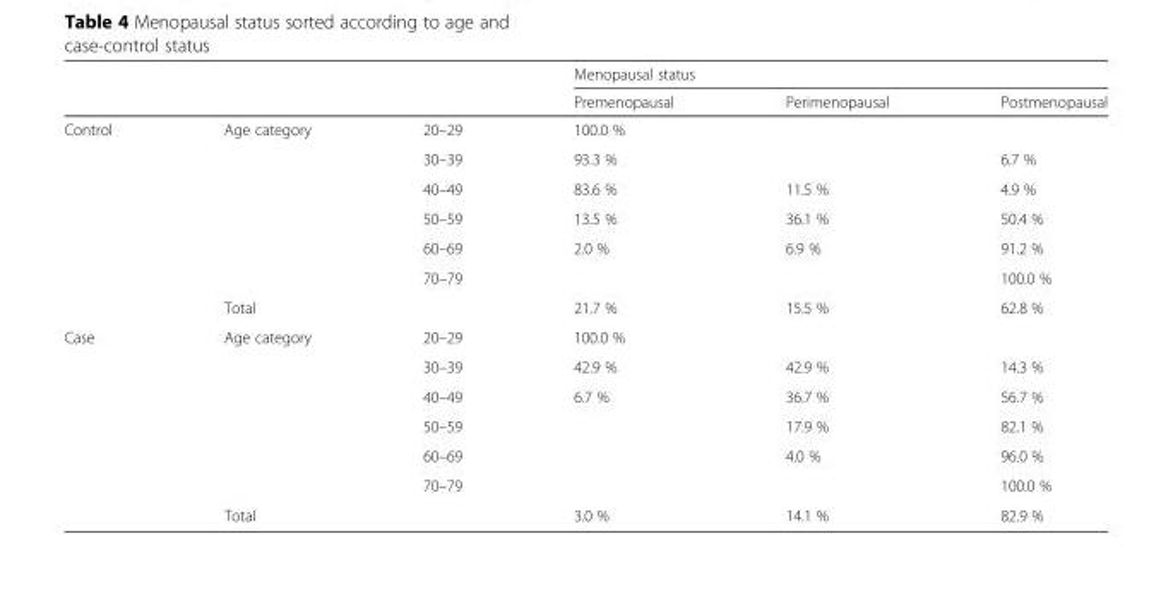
<table><thead><tr><td rowspan="2"></td><td rowspan="2"></td><td rowspan="2"></td><td colspan="3">Menopausal status</td></tr><tr><td>Premenopausal</td><td>Perimenopausal</td><td>Postmenopausal</td></tr></thead><tbody><tr><td rowspan="7">Control</td><td rowspan="6">Age category</td><td>20–29</td><td>100.0 %</td><td></td><td></td></tr><tr><td>30–39</td><td>93.3 %</td><td></td><td>6.7 %</td></tr><tr><td>40–49</td><td>83.6 %</td><td>11.5 %</td><td>4.9 %</td></tr><tr><td>50–59</td><td>13.5 %</td><td>36.1 %</td><td>50.4 %</td></tr><tr><td>60–69</td><td>2.0 %</td><td>6.9 %</td><td>91.2 %</td></tr><tr><td>70–79</td><td></td><td></td><td>100.0 %</td></tr><tr><td colspan="2">Total</td><td>21.7 %</td><td>15.5 %</td><td>62.8 %</td></tr><tr><td rowspan="7">Case</td><td rowspan="6">Age category</td><td>20–29</td><td>100.0 %</td><td></td><td></td></tr><tr><td>30–39</td><td>42.9 %</td><td>42.9 %</td><td>14.3 %</td></tr><tr><td>40–49</td><td>6.7 %</td><td>36.7 %</td><td>56.7 %</td></tr><tr><td>50–59</td><td></td><td>17.9 %</td><td>82.1 %</td></tr><tr><td>60–69</td><td></td><td>4.0 %</td><td>96.0 %</td></tr><tr><td>70–79</td><td></td><td></td><td>100.0 %</td></tr><tr><td colspan="2">Total</td><td>3.0 %</td><td>14.1 %</td><td>82.9 %</td></tr></tbody></table>